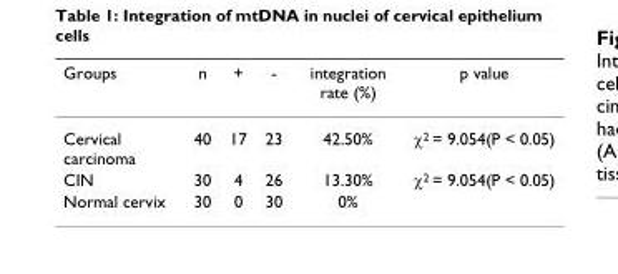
<table><thead><tr><td>Groups</td><td>n</td><td>+</td><td>-</td><td>integration rate (%)</td><td>p value</td></tr></thead><tbody><tr><td>Cervical carcinoma</td><td>40</td><td>17</td><td>23</td><td>42.50%</td><td>χ<sup>2</sup> = 9.054(P &lt; 0.05)</td></tr><tr><td>CIN</td><td>30</td><td>4</td><td>26</td><td>13.30%</td><td>χ<sup>2</sup> = 9.054(P &lt; 0.05)</td></tr><tr><td>Normal cervix</td><td>30</td><td>0</td><td>30</td><td>0%</td><td></td></tr></tbody></table>